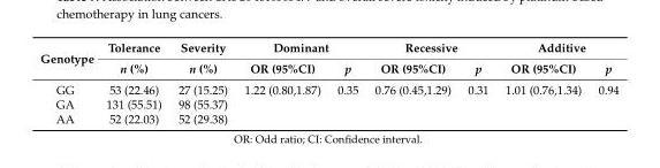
<table><thead><tr><td rowspan="2">Genotype</td><td rowspan="2">Tolerance n (%)</td><td rowspan="2">Severity n (%)</td><td colspan="2">Dominant</td><td colspan="2">Recessive</td><td colspan="2">Additive</td></tr><tr><td>OR (95%CI)</td><td>p</td><td>OR (95%CI)</td><td>p</td><td>OR (95%CI)</td><td>p</td></tr></thead><tbody><tr><td>GG</td><td>53 (22.46)</td><td>27 (15.25)</td><td>1.22 (0.80,1.87)</td><td>0.35</td><td>0.76 (0.45,1.29)</td><td>0.31</td><td>1.01 (0.76,1.34)</td><td>0.94</td></tr><tr><td>GA</td><td>131 (55.51)</td><td>98 (55.37)</td><td></td><td></td><td></td><td></td><td></td><td></td></tr><tr><td>AA</td><td>52 (22.03)</td><td>52 (29.38)</td><td></td><td></td><td></td><td></td><td></td><td></td></tr></tbody></table>